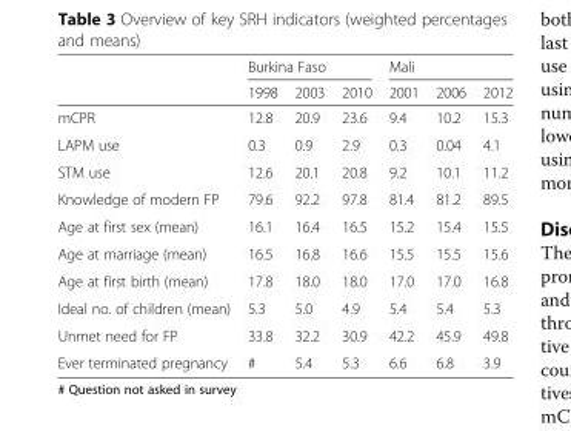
<table><thead><tr><td rowspan="2"></td><td colspan="3">Burkina Faso</td><td colspan="3">Mali</td></tr><tr><td>1998</td><td>2003</td><td>2010</td><td>2001</td><td>2006</td><td>2012</td></tr></thead><tbody><tr><td>mCPR</td><td>12.8</td><td>20.9</td><td>23.6</td><td>9.4</td><td>10.2</td><td>15.3</td></tr><tr><td>LAPM use</td><td>0.3</td><td>0.9</td><td>2.9</td><td>0.3</td><td>0.04</td><td>4.1</td></tr><tr><td>STM use</td><td>12.6</td><td>20.1</td><td>20.8</td><td>9.2</td><td>10.1</td><td>11.2</td></tr><tr><td>Knowledge of modern FP</td><td>79.6</td><td>92.2</td><td>97.8</td><td>81.4</td><td>81.2</td><td>89.5</td></tr><tr><td>Age at first sex (mean)</td><td>16.1</td><td>16.4</td><td>16.5</td><td>15.2</td><td>15.4</td><td>15.5</td></tr><tr><td>Age at marriage (mean)</td><td>16.5</td><td>16.8</td><td>16.6</td><td>15.5</td><td>15.5</td><td>15.6</td></tr><tr><td>Age at first birth (mean)</td><td>17.8</td><td>18.0</td><td>18.0</td><td>17.0</td><td>17.0</td><td>16.8</td></tr><tr><td>Ideal no. of children (mean)</td><td>5.3</td><td>5.0</td><td>4.9</td><td>5.4</td><td>5.4</td><td>5.3</td></tr><tr><td>Unmet need for FP</td><td>33.8</td><td>32.2</td><td>30.9</td><td>42.2</td><td>45.9</td><td>49.8</td></tr><tr><td>Ever terminated pregnancy</td><td>#</td><td>5.4</td><td>5.3</td><td>6.6</td><td>6.8</td><td>3.9</td></tr></tbody></table>